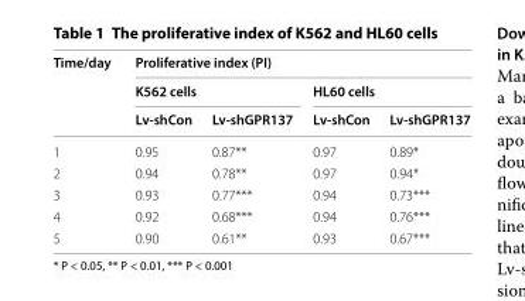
<table><thead><tr><td rowspan="3">Time/day</td><td colspan="4">Proliferative index (PI)</td></tr><tr><td colspan="2">K562 cells</td><td colspan="2">HL60 cells</td></tr><tr><td>Lv‑shCon</td><td>Lv‑shGPR137</td><td>Lv‑shCon</td><td>Lv‑shGPR137</td></tr></thead><tbody><tr><td>1</td><td>0.95</td><td>0.87**</td><td>0.97</td><td>0.89*</td></tr><tr><td>2</td><td>0.94</td><td>0.78**</td><td>0.97</td><td>0.94*</td></tr><tr><td>3</td><td>0.93</td><td>0.77***</td><td>0.94</td><td>0.73***</td></tr><tr><td>4</td><td>0.92</td><td>0.68***</td><td>0.94</td><td>0.76***</td></tr><tr><td>5</td><td>0.90</td><td>0.61**</td><td>0.93</td><td>0.67***</td></tr></tbody></table>